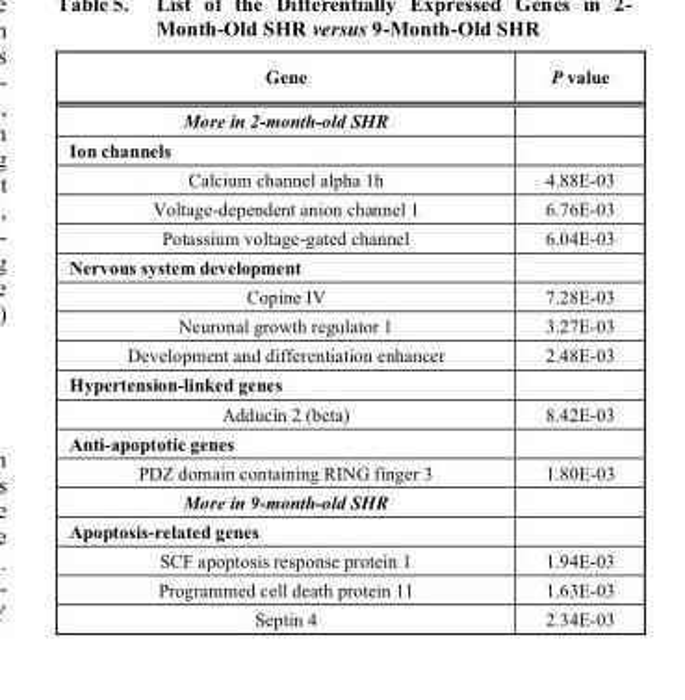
<table><thead><tr><td>Gene</td><td>P value</td></tr></thead><tbody><tr><td colspan="2">More in 2-month-old SHR</td></tr><tr><td colspan="2">Ion channels</td></tr><tr><td>Calcium channel alpha 1h</td><td>4.88E-03</td></tr><tr><td>Voltage-dependent anion channel 1</td><td>6.76E-03</td></tr><tr><td>Potassium voltage-gated channel</td><td>6.04E-03</td></tr><tr><td colspan="2">Nervous system development</td></tr><tr><td>Copine IV</td><td>7.28E-03</td></tr><tr><td>Neuronal growth regulator 1</td><td>3.27E-03</td></tr><tr><td>Development and differentiation enhancer</td><td>2.48E-03</td></tr><tr><td colspan="2">Hypertension-linked genes</td></tr><tr><td>Adducin 2 (beta)</td><td>8.42E-03</td></tr><tr><td colspan="2">Anti-apoptotic genes</td></tr><tr><td>PDZ domain containing RING finger 3</td><td>1.80E-03</td></tr><tr><td colspan="2">More in 9-month-old SHR</td></tr><tr><td colspan="2">Apoptosis-related genes</td></tr><tr><td>SCF apoptosis response protein 1</td><td>1.94E-03</td></tr><tr><td>Programmed cell death protein 11</td><td>1.63E-03</td></tr><tr><td>Septin 4</td><td>2.34E-03</td></tr></tbody></table>